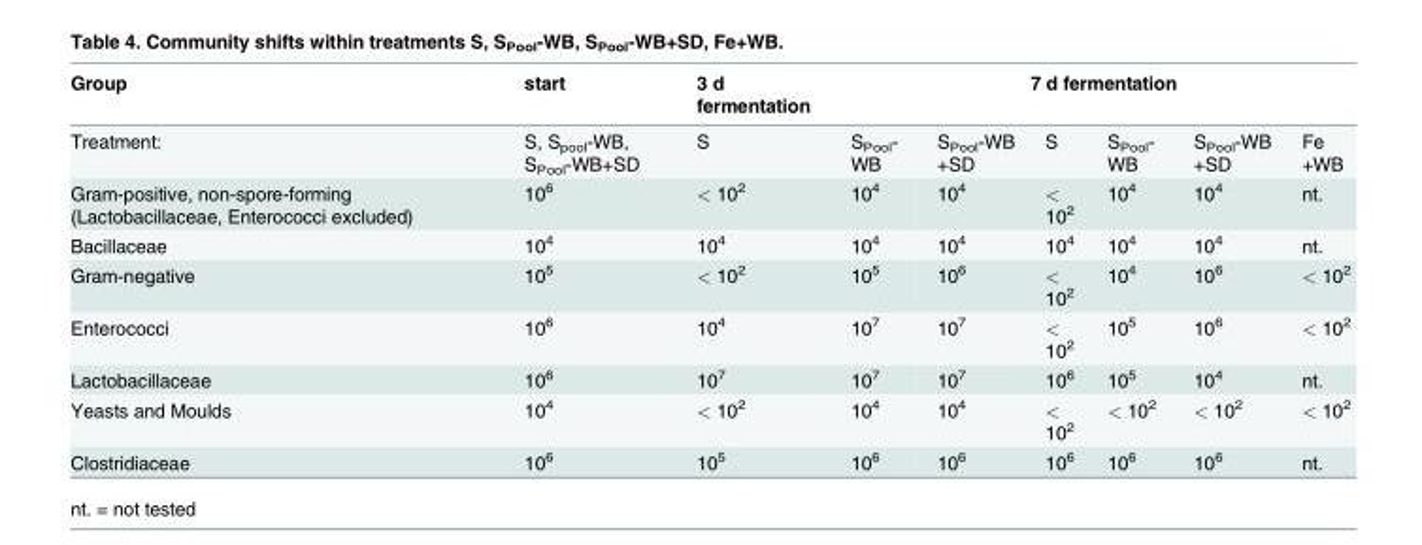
<table><thead><tr><td rowspan="2">Group Treatment:</td><td rowspan="2">start S, S<sub>pool</sub>-WB, S<sub>Pool</sub>-WB+SD</td><td rowspan="2">3 d fermentation S</td><td colspan="6">7 d fermentation</td></tr><tr><td>S<sub>Pool</sub>- WB</td><td>S<sub>Pool</sub>-WB +SD</td><td>S</td><td>S<sub>Pool</sub>- WB</td><td>S<sub>Pool</sub>-WB +SD</td><td>Fe +WB</td></tr></thead><tbody><tr><td>Gram-positive, non-spore-forming (Lactobacillaceae, Enterococci excluded)</td><td>10<sup>6</sup></td><td>&lt; 10<sup>2</sup></td><td>10<sup>4</sup></td><td>10<sup>4</sup></td><td>&lt; 10<sup>2</sup></td><td>10<sup>4</sup></td><td>10<sup>4</sup></td><td>nt.</td></tr><tr><td>Bacillaceae</td><td>10<sup>4</sup></td><td>10<sup>4</sup></td><td>10<sup>4</sup></td><td>10<sup>4</sup></td><td>10<sup>4</sup></td><td>10<sup>4</sup></td><td>10<sup>4</sup></td><td>nt.</td></tr><tr><td>Gram-negative</td><td>10<sup>5</sup></td><td>&lt; 10<sup>2</sup></td><td>10<sup>5</sup></td><td>10<sup>6</sup></td><td>&lt; 10<sup>2</sup></td><td>10<sup>4</sup></td><td>10<sup>6</sup></td><td>&lt; 10<sup>2</sup></td></tr><tr><td>Enterococci</td><td>10<sup>6</sup></td><td>10<sup>4</sup></td><td>10<sup>7</sup></td><td>10<sup>7</sup></td><td>&lt; 10<sup>2</sup></td><td>10<sup>5</sup></td><td>10<sup>6</sup></td><td>&lt; 10<sup>2</sup></td></tr><tr><td>Lactobacillaceae</td><td>10<sup>6</sup></td><td>10<sup>7</sup></td><td>10<sup>7</sup></td><td>10<sup>7</sup></td><td>10<sup>6</sup></td><td>10<sup>5</sup></td><td>10<sup>4</sup></td><td>nt.</td></tr><tr><td>Yeasts and Moulds</td><td>10<sup>4</sup></td><td>&lt; 10<sup>2</sup></td><td>10<sup>4</sup></td><td>10<sup>4</sup></td><td>&lt; 10<sup>2</sup></td><td>&lt; 10<sup>2</sup></td><td>&lt; 10<sup>2</sup></td><td>&lt; 10<sup>2</sup></td></tr><tr><td>Clostridiaceae</td><td>10<sup>6</sup></td><td>10<sup>5</sup></td><td>10<sup>6</sup></td><td>10<sup>6</sup></td><td>10<sup>6</sup></td><td>10<sup>6</sup></td><td>10<sup>6</sup></td><td>nt.</td></tr></tbody></table>